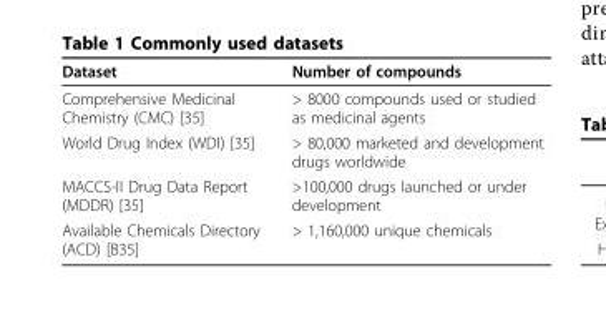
<table><thead><tr><td>Dataset</td><td>Number of compounds</td></tr></thead><tbody><tr><td>Comprehensive Medicinal Chemistry (CMC) [35]</td><td>&gt; 8000 compounds used or studied as medicinal agents</td></tr><tr><td>World Drug Index (WDI) [35]</td><td>&gt; 80,000 marketed and development drugs worldwide</td></tr><tr><td>MACCS-II Drug Data Report (MDDR) [35]</td><td>&gt;100,000 drugs launched or under development</td></tr><tr><td>Available Chemicals Directory (ACD) [B35]</td><td>&gt; 1,160,000 unique chemicals</td></tr></tbody></table>